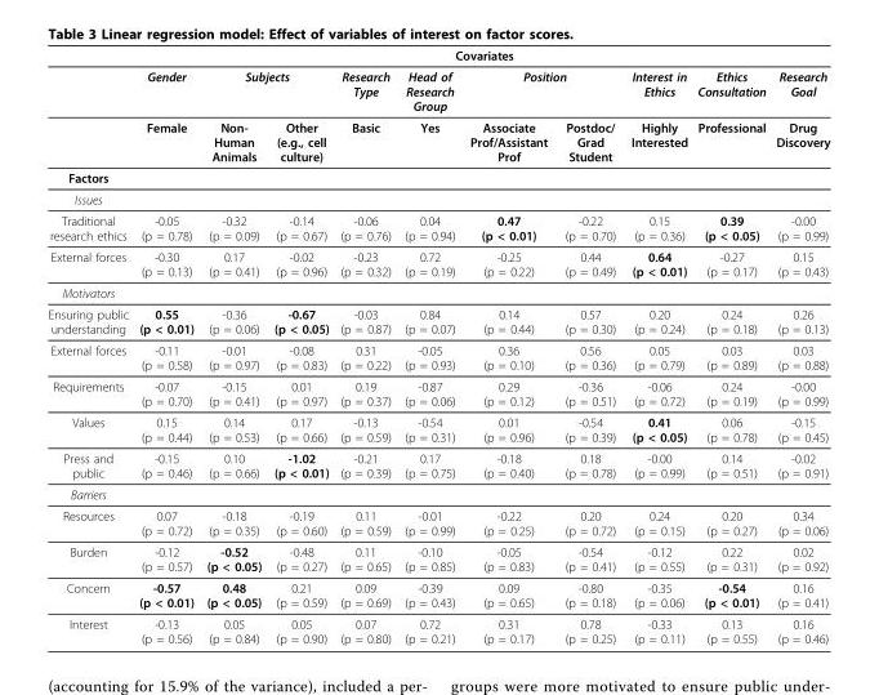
<table><thead><tr><td rowspan="3"></td><td colspan="10">Covariates</td></tr><tr><td rowspan="2">Gender Female</td><td colspan="2">Subjects</td><td rowspan="2">Research Type Basic</td><td rowspan="2">Head of Research Group Yes</td><td colspan="2">Position</td><td rowspan="2">Interest in Ethics Highly Interested</td><td rowspan="2">Ethics Consultation Professional</td><td rowspan="2">Research Goal Drug Discovery</td></tr><tr><td>Non- Human Animals</td><td>Other (e.g., cell culture)</td><td>Associate Prof/Assistant Prof</td><td>Postdoc/ Grad Student</td></tr></thead><tbody><tr><td colspan="11">Factors</td></tr><tr><td colspan="11">Issues</td></tr><tr><td>Traditional research ethics</td><td>-0.05 (p = 0.78)</td><td>-0.32 (p = 0.09)</td><td>-0.14 (p = 0.67)</td><td>-0.06 (p = 0.76)</td><td>0.04 (p = 0.94)</td><td>0.47 (p &lt; 0.01)</td><td>-0.22 (p = 0.70)</td><td>0.15 (p = 0.36)</td><td>0.39 (p &lt; 0.05)</td><td>-0.00 (p = 0.99)</td></tr><tr><td>External forces</td><td>-0.30 (p = 0.13)</td><td>0.17 (p = 0.41)</td><td>-0.02 (p = 0.96)</td><td>-0.23 (p = 0.32)</td><td>0.72 (p = 0.19)</td><td>-0.25 (p = 0.22)</td><td>0.44 (p = 0.49)</td><td>0.64 (p &lt; 0.01)</td><td>-0.27 (p = 0.17)</td><td>0.15 (p = 0.43)</td></tr><tr><td colspan="11">Motivators</td></tr><tr><td>Ensuring public understanding</td><td>0.55 (p &lt; 0.01)</td><td>-0.36 (p = 0.06)</td><td>-0.67 (p &lt; 0.05)</td><td>-0.03 (p = 0.87)</td><td>0.84 (p = 0.07)</td><td>0.14 (p = 0.44)</td><td>0.57 (p = 0.30)</td><td>0.20 (p = 0.24)</td><td>0.24 (p = 0.18)</td><td>0.26 (p = 0.13)</td></tr><tr><td>External forces</td><td>-0.11 (p = 0.58)</td><td>-0.01 (p = 0.97)</td><td>-0.08 (p = 0.83)</td><td>0.31 (p = 0.22)</td><td>-0.05 (p = 0.93)</td><td>0.36 (p = 0.10)</td><td>0.56 (p = 0.36)</td><td>0.05 (p = 0.79)</td><td>0.03 (p = 0.89)</td><td>0.03 (p = 0.88)</td></tr><tr><td>Requirements</td><td>-0.07 (p = 0.70)</td><td>-0.15 (p = 0.41)</td><td>0.01 (p = 0.97)</td><td>0.19 (p = 0.37)</td><td>-0.87 (p = 0.06)</td><td>0.29 (p = 0.12)</td><td>-0.36 (p = 0.51)</td><td>-0.06 (p = 0.72)</td><td>0.24 (p = 0.19)</td><td>-0.00 (p = 0.99)</td></tr><tr><td>Values</td><td>0.15 (p = 0.44)</td><td>0.14 (p = 0.53)</td><td>0.17 (p = 0.66)</td><td>-0.13 (p = 0.59)</td><td>-0.54 (p = 0.31)</td><td>0.01 (p = 0.96)</td><td>-0.54 (p = 0.39)</td><td>0.41 (p &lt; 0.05)</td><td>0.06 (p = 0.78)</td><td>-0.15 (p = 0.45)</td></tr><tr><td>Press and public</td><td>-0.15 (p = 0.46)</td><td>0.10 (p = 0.66)</td><td>-1.02 (p &lt; 0.01)</td><td>-0.21 (p = 0.39)</td><td>0.17 (p = 0.75)</td><td>-0.18 (p = 0.40)</td><td>0.18 (p = 0.78)</td><td>-0.00 (p = 0.99)</td><td>0.14 (p = 0.51)</td><td>-0.02 (p = 0.91)</td></tr><tr><td colspan="11">Barriers</td></tr><tr><td>Resources</td><td>0.07 (p = 0.72)</td><td>-0.18 (p = 0.35)</td><td>-0.19 (p = 0.60)</td><td>0.11 (p = 0.59)</td><td>-0.01 (p = 0.99)</td><td>-0.22 (p = 0.25)</td><td>0.20 (p = 0.72)</td><td>0.24 (p = 0.15)</td><td>0.20 (p = 0.27)</td><td>0.34 (p = 0.06)</td></tr><tr><td>Burden</td><td>-0.12 (p = 0.57)</td><td>-0.52 (p &lt; 0.05)</td><td>-0.48 (p = 0.27)</td><td>0.11 (p = 0.65)</td><td>-0.10 (p = 0.85)</td><td>-0.05 (p = 0.83)</td><td>-0.54 (p = 0.41)</td><td>-0.12 (p = 0.55)</td><td>0.22 (p = 0.31)</td><td>0.02 (p = 0.92)</td></tr><tr><td>Concern</td><td>-0.57 (p &lt; 0.01)</td><td>0.48 (p &lt; 0.05)</td><td>0.21 (p = 0.59)</td><td>0.09 (p = 0.69)</td><td>-0.39 (p = 0.43)</td><td>0.09 (p = 0.65)</td><td>-0.80 (p = 0.18)</td><td>-0.35 (p = 0.06)</td><td>-0.54 (p &lt; 0.01)</td><td>0.16 (p = 0.41)</td></tr><tr><td>Interest</td><td>-0.13 (p = 0.56)</td><td>0.05 (p = 0.84)</td><td>0.05 (p = 0.90)</td><td>0.07 (p = 0.80)</td><td>0.72 (p = 0.21)</td><td>0.31 (p = 0.17)</td><td>0.78 (p = 0.25)</td><td>-0.33 (p = 0.11)</td><td>0.13 (p = 0.55)</td><td>0.16 (p = 0.46)</td></tr></tbody></table>